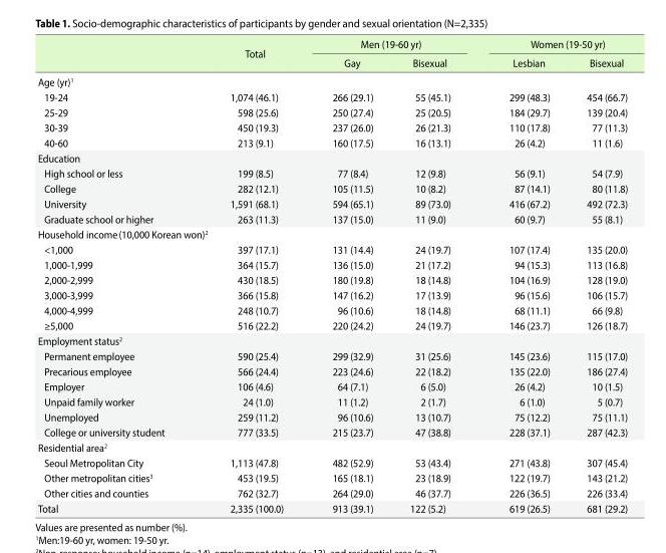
<table><thead><tr><td rowspan="2"></td><td rowspan="2">Total</td><td colspan="2">Men (19-60 yr)</td><td colspan="2">Women (19-50 yr)</td></tr><tr><td>Gay</td><td>Bisexual</td><td>Lesbian</td><td>Bisexual</td></tr></thead><tbody><tr><td colspan="6">Age (yr)<sup>1</sup></td></tr><tr><td>19-24</td><td>1,074 (46.1)</td><td>266 (29.1)</td><td>55 (45.1)</td><td>299 (48.3)</td><td>454 (66.7)</td></tr><tr><td>25-29</td><td>598 (25.6)</td><td>250 (27.4)</td><td>25 (20.5)</td><td>184 (29.7)</td><td>139 (20.4)</td></tr><tr><td>30-39</td><td>450 (19.3)</td><td>237 (26.0)</td><td>26 (21.3)</td><td>110 (17.8)</td><td>77 (11.3)</td></tr><tr><td>40-60</td><td>213 (9.1)</td><td>160 (17.5)</td><td>16 (13.1)</td><td>26 (4.2)</td><td>11 (1.6)</td></tr><tr><td colspan="6">Education</td></tr><tr><td>High school or less</td><td>199 (8.5)</td><td>77 (8.4)</td><td>12 (9.8)</td><td>56 (9.1)</td><td>54 (7.9)</td></tr><tr><td>College</td><td>282 (12.1)</td><td>105 (11.5)</td><td>10 (8.2)</td><td>87 (14.1)</td><td>80 (11.8)</td></tr><tr><td>University</td><td>1,591 (68.1)</td><td>594 (65.1)</td><td>89 (73.0)</td><td>416 (67.2)</td><td>492 (72.3)</td></tr><tr><td>Graduate school or higher</td><td>263 (11.3)</td><td>137 (15.0)</td><td>11 (9.0)</td><td>60 (9.7)</td><td>55 (8.1)</td></tr><tr><td colspan="6">Household income (10,000 Korean won)<sup>2</sup></td></tr><tr><td>&lt;1,000</td><td>397 (17.1)</td><td>131 (14.4)</td><td>24 (19.7)</td><td>107 (17.4)</td><td>135 (20.0)</td></tr><tr><td>1,000-1,999</td><td>364 (15.7)</td><td>136 (15.0)</td><td>21 (17.2)</td><td>94 (15.3)</td><td>113 (16.8)</td></tr><tr><td>2,000-2,999</td><td>430 (18.5)</td><td>180 (19.8)</td><td>18 (14.8)</td><td>104 (16.9)</td><td>128 (19.0)</td></tr><tr><td>3,000-3,999</td><td>366 (15.8)</td><td>147 (16.2)</td><td>17 (13.9)</td><td>96 (15.6)</td><td>106 (15.7)</td></tr><tr><td>4,000-4,999</td><td>248 (10.7)</td><td>96 (10.6)</td><td>18 (14.8)</td><td>68 (11.1)</td><td>66 (9.8)</td></tr><tr><td>≥5,000</td><td>516 (22.2)</td><td>220 (24.2)</td><td>24 (19.7)</td><td>146 (23.7)</td><td>126 (18.7)</td></tr><tr><td colspan="6">Employment status<sup>2</sup></td></tr><tr><td>Permanent employee</td><td>590 (25.4)</td><td>299 (32.9)</td><td>31 (25.6)</td><td>145 (23.6)</td><td>115 (17.0)</td></tr><tr><td>Precarious employee</td><td>566 (24.4)</td><td>223 (24.6)</td><td>22 (18.2)</td><td>135 (22.0)</td><td>186 (27.4)</td></tr><tr><td>Employer</td><td>106 (4.6)</td><td>64 (7.1)</td><td>6 (5.0)</td><td>26 (4.2)</td><td>10 (1.5)</td></tr><tr><td>Unpaid family worker</td><td>24 (1.0)</td><td>11 (1.2)</td><td>2 (1.7)</td><td>6 (1.0)</td><td>5 (0.7)</td></tr><tr><td>Unemployed</td><td>259 (11.2)</td><td>96 (10.6)</td><td>13 (10.7)</td><td>75 (12.2)</td><td>75 (11.1)</td></tr><tr><td>College or university student</td><td>777 (33.5)</td><td>215 (23.7)</td><td>47 (38.8)</td><td>228 (37.1)</td><td>287 (42.3)</td></tr><tr><td colspan="6">Residential area<sup>2</sup></td></tr><tr><td>Seoul Metropolitan City</td><td>1,113 (47.8)</td><td>482 (52.9)</td><td>53 (43.4)</td><td>271 (43.8)</td><td>307 (45.4)</td></tr><tr><td>Other metropolitan cities<sup>3</sup></td><td>453 (19.5)</td><td>165 (18.1)</td><td>23 (18.9)</td><td>122 (19.7)</td><td>143 (21.2)</td></tr><tr><td>Other cities and counties</td><td>762 (32.7)</td><td>264 (29.0)</td><td>46 (37.7)</td><td>226 (36.5)</td><td>226 (33.4)</td></tr><tr><td>Total</td><td>2,335 (100.0)</td><td>913 (39.1)</td><td>122 (5.2)</td><td>619 (26.5)</td><td>681 (29.2)</td></tr></tbody></table>